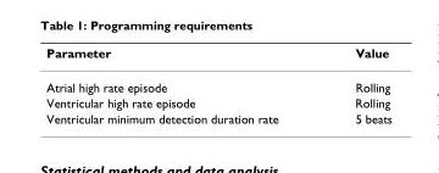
<table><thead><tr><td>Parameter</td><td>Value</td></tr></thead><tbody><tr><td>Atrial high rate episode</td><td>Rolling</td></tr><tr><td>Ventricular high rate episode</td><td>Rolling</td></tr><tr><td>Ventricular minimum detection duration rate</td><td>5 beats</td></tr></tbody></table>